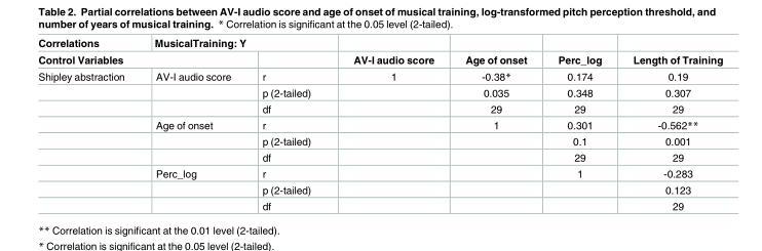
<table><thead><tr><td>Correlations</td><td colspan="2">MusicalTraining: Y</td><td rowspan="3">AV-I audio score 1</td><td rowspan="3">Age of onset -0.38*</td><td rowspan="3">Perc_log 0.174</td><td rowspan="3">Length of Training 0.19</td></tr><tr><td colspan="2">Control Variables</td><td rowspan="2">r</td></tr><tr><td>Shipley abstraction</td><td>AV-I audio score</td></tr></thead><tbody><tr><td></td><td></td><td>p (2-tailed)</td><td></td><td>0.035</td><td>0.348</td><td>0.307</td></tr><tr><td></td><td></td><td>df</td><td></td><td>29</td><td>29</td><td>29</td></tr><tr><td></td><td>Age of onset</td><td>r</td><td></td><td>1</td><td>0.301</td><td>-0.562**</td></tr><tr><td></td><td></td><td>p (2-tailed)</td><td></td><td></td><td>0.1</td><td>0.001</td></tr><tr><td></td><td></td><td>df</td><td></td><td></td><td>29</td><td>29</td></tr><tr><td></td><td>Perc_log</td><td>r</td><td></td><td></td><td>1</td><td>-0.283</td></tr><tr><td></td><td></td><td>p (2-tailed)</td><td></td><td></td><td></td><td>0.123</td></tr><tr><td></td><td></td><td>df</td><td></td><td></td><td></td><td>29</td></tr></tbody></table>